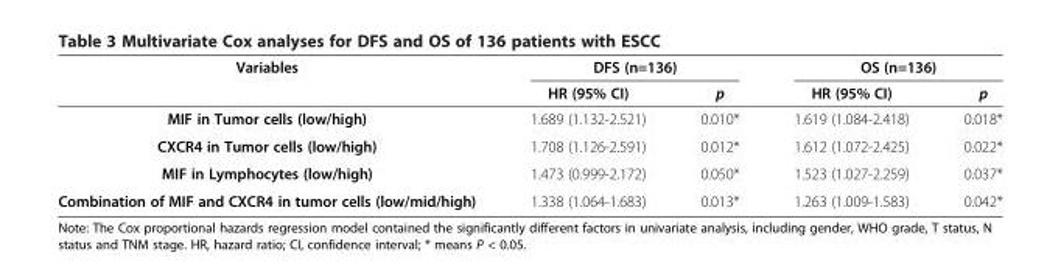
<table><thead><tr><td rowspan="2">Variables</td><td colspan="2">DFS (n=136)</td><td colspan="2">OS (n=136)</td></tr><tr><td>HR (95% CI)</td><td>p</td><td>HR (95% CI)</td><td>p</td></tr></thead><tbody><tr><td>MIF in Tumor cells (low/high)</td><td>1.689 (1.132-2.521)</td><td>0.010*</td><td>1.619 (1.084-2.418)</td><td>0.018*</td></tr><tr><td>CXCR4 in Tumor cells (low/high)</td><td>1.708 (1.126-2.591)</td><td>0.012*</td><td>1.612 (1.072-2.425)</td><td>0.022*</td></tr><tr><td>MIF in Lymphocytes (low/high)</td><td>1.473 (0.999-2.172)</td><td>0.050*</td><td>1.523 (1.027-2.259)</td><td>0.037*</td></tr><tr><td>Combination of MIF and CXCR4 in tumor cells (low/mid/high)</td><td>1.338 (1.064-1.683)</td><td>0.013*</td><td>1.263 (1.009-1.583)</td><td>0.042*</td></tr></tbody></table>